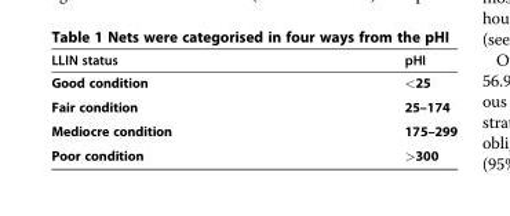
<table><thead><tr><td>LLIN status</td><td>pHI</td></tr></thead><tbody><tr><td>Good condition</td><td>&lt;25</td></tr><tr><td>Fair condition</td><td>25–174</td></tr><tr><td>Mediocre condition</td><td>175–299</td></tr><tr><td>Poor condition</td><td>&gt;300</td></tr></tbody></table>